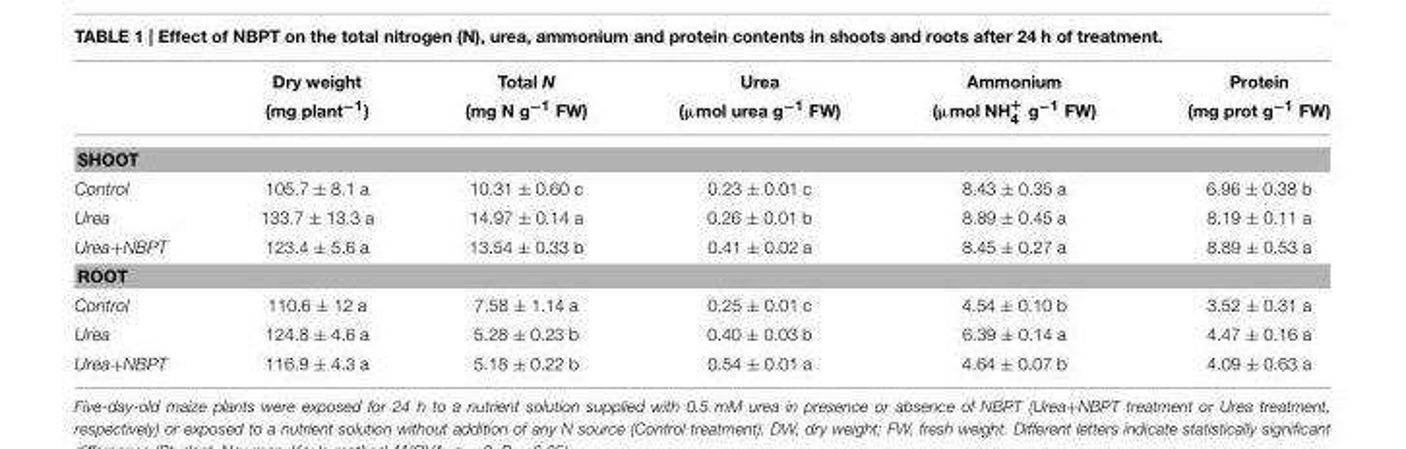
<table><thead><tr><td></td><td>Dry weight (mg plant<sup>−1</sup>)</td><td>Total N (mg N g<sup>−1</sup> FW)</td><td>Urea (µmol urea g<sup>−1</sup> FW)</td><td>Ammonium (µmol NH<sup>+</sup> <sub>4</sub> g<sup>−1</sup> FW)</td><td>Protein (mg prot g<sup>−1</sup> FW)</td></tr></thead><tbody><tr><td colspan="6">SHOOT</td></tr><tr><td>Control</td><td>105.7 ± 8.1 a</td><td>10.31 ± 0.60 c</td><td>0.23 ± 0.01 c</td><td>8.43 ± 0.35 a</td><td>6.96 ± 0.38 b</td></tr><tr><td>Urea</td><td>133.7 ± 13.3 a</td><td>14.97 ± 0.14 a</td><td>0.26 ± 0.01 b</td><td>8.89 ± 0.45 a</td><td>8.19 ± 0.11 a</td></tr><tr><td>Urea+NBPT</td><td>123.4 ± 5.6 a</td><td>13.54 ± 0.33 b</td><td>0.41 ± 0.02 a</td><td>8.45 ± 0.27 a</td><td>8.89 ± 0.53 a</td></tr><tr><td colspan="6">ROOT</td></tr><tr><td>Control</td><td>110.6 ± 12 a</td><td>7.58 ± 1.14 a</td><td>0.25 ± 0.01 c</td><td>4.54 ± 0.10 b</td><td>3.52 ± 0.31 a</td></tr><tr><td>Urea</td><td>124.8 ± 4.6 a</td><td>5.28 ± 0.23 b</td><td>0.40 ± 0.03 b</td><td>6.39 ± 0.14 a</td><td>4.47 ± 0.16 a</td></tr><tr><td>Urea+NBPT</td><td>116.9 ± 4.3 a</td><td>5.18 ± 0.22 b</td><td>0.54 ± 0.01 a</td><td>4.64 ± 0.07 b</td><td>4.09 ± 0.63 a</td></tr></tbody></table>